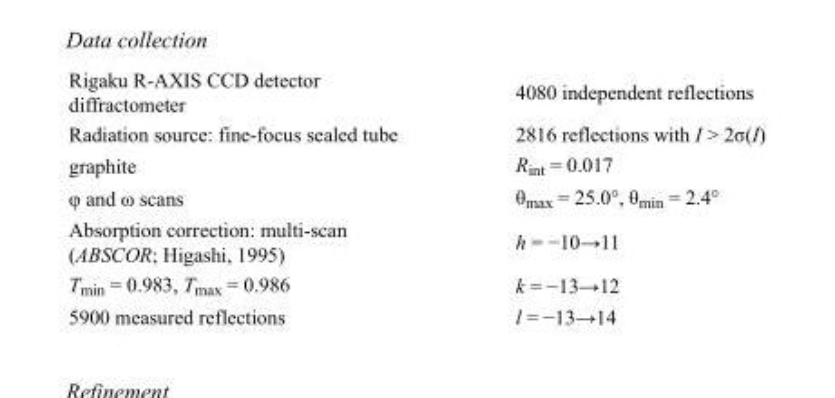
<table><tbody><tr><td>Rigaku R-AXIS CCD detector diffractometer</td><td>4080 independent reflections</td></tr><tr><td>Radiation source: fine-focus sealed tube</td><td>2816 reflections with I &gt; 2σ(I)</td></tr><tr><td>graphite</td><td>R<sub>int</sub> = 0.017</td></tr><tr><td>φ and ω scans</td><td>θ<sub>max</sub> = 25.0°, θ<sub>min</sub> = 2.4°</td></tr><tr><td>Absorption correction: multi-scan (ABSCOR; Higashi, 1995)</td><td>h = −10→11</td></tr><tr><td>T<sub>min</sub> = 0.983, T<sub>max</sub> = 0.986</td><td>k = −13→12</td></tr><tr><td>5900 measured reflections</td><td>l = −13→14</td></tr></tbody></table>